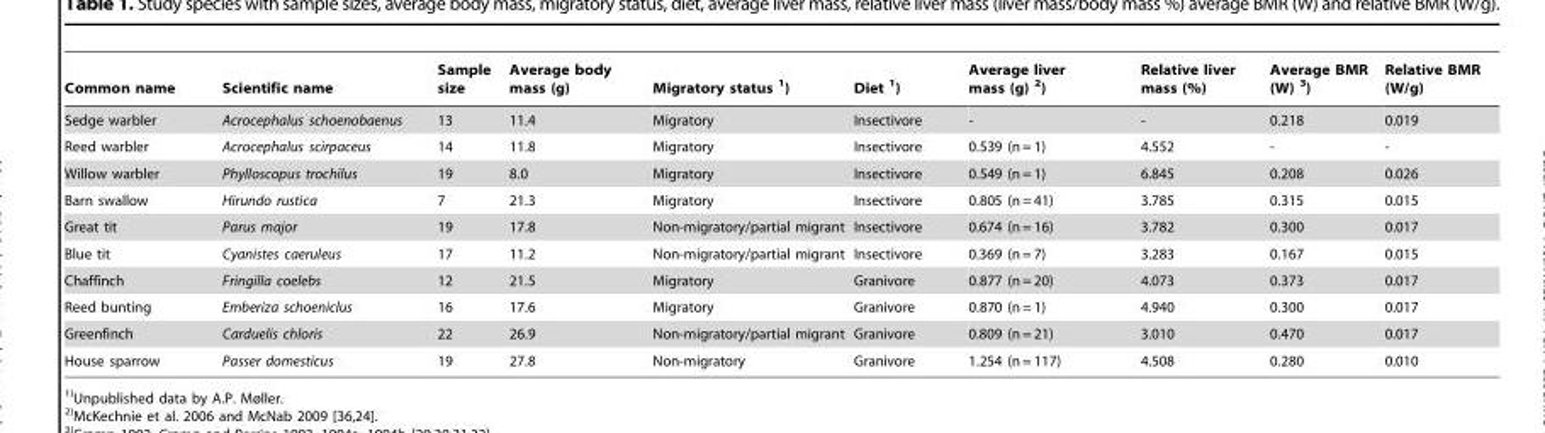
<table><thead><tr><td>Common name</td><td>Scientific name</td><td>Sample size</td><td>Average body mass (g)</td><td>Migratory status 1)</td><td>Diet 1)</td><td>Average liver mass (g) 2)</td><td>Relative liver mass (%)</td><td>Average BMR (W) 3)</td><td>Relative BMR (W/g)</td></tr></thead><tbody><tr><td>Sedge warbler</td><td>Acrocephalus schoenobaenus</td><td>13</td><td>11.4</td><td>Migratory</td><td>Insectivore</td><td>-</td><td>-</td><td>0.218</td><td>0.019</td></tr><tr><td>Reed warbler</td><td>Acrocephalus scirpaceus</td><td>14</td><td>11.8</td><td>Migratory</td><td>Insectivore</td><td>0.539 (n = 1)</td><td>4.552</td><td>-</td><td>-</td></tr><tr><td>Willow warbler</td><td>Phylloscopus trochilus</td><td>19</td><td>8.0</td><td>Migratory</td><td>Insectivore</td><td>0.549 (n = 1)</td><td>6.845</td><td>0.208</td><td>0.026</td></tr><tr><td>Barn swallow</td><td>Hirundo rustica</td><td>7</td><td>21.3</td><td>Migratory</td><td>Insectivore</td><td>0.805 (n = 41)</td><td>3.785</td><td>0.315</td><td>0.015</td></tr><tr><td>Great tit</td><td>Parus major</td><td>19</td><td>17.8</td><td>Non-migratory/partial migrant</td><td>Insectivore</td><td>0.674 (n = 16)</td><td>3.782</td><td>0.300</td><td>0.017</td></tr><tr><td>Blue tit</td><td>Cyanistes caeruleus</td><td>17</td><td>11.2</td><td>Non-migratory/partial migrant</td><td>Insectivore</td><td>0.369 (n = 7)</td><td>3.283</td><td>0.167</td><td>0.015</td></tr><tr><td>Chaffinch</td><td>Fringilla coelebs</td><td>12</td><td>21.5</td><td>Migratory</td><td>Granivore</td><td>0.877 (n = 20)</td><td>4.073</td><td>0.373</td><td>0.017</td></tr><tr><td>Reed bunting</td><td>Emberiza schoeniclus</td><td>16</td><td>17.6</td><td>Migratory</td><td>Granivore</td><td>0.870 (n = 1)</td><td>4.940</td><td>0.300</td><td>0.017</td></tr><tr><td>Greenfinch</td><td>Carduelis chloris</td><td>22</td><td>26.9</td><td>Non-migratory/partial migrant</td><td>Granivore</td><td>0.809 (n = 21)</td><td>3.010</td><td>0.470</td><td>0.017</td></tr><tr><td>House sparrow</td><td>Passer domesticus</td><td>19</td><td>27.8</td><td>Non-migratory</td><td>Granivore</td><td>1.254 (n = 117)</td><td>4.508</td><td>0.280</td><td>0.010</td></tr></tbody></table>